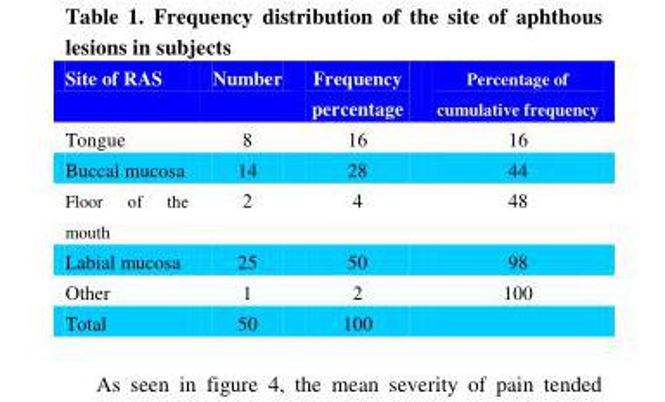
<table><thead><tr><td>Site of RAS</td><td>Number</td><td>Frequency percentage</td><td>Percentage of cumulative frequency</td></tr></thead><tbody><tr><td>Tongue</td><td>8</td><td>16</td><td>16</td></tr><tr><td>Buccal mucosa</td><td>14</td><td>28</td><td>44</td></tr><tr><td>Floor of the mouth</td><td>2</td><td>4</td><td>48</td></tr><tr><td>Labial mucosa</td><td>25</td><td>50</td><td>98</td></tr><tr><td>Other</td><td>1</td><td>2</td><td>100</td></tr><tr><td>Total</td><td>50</td><td>100</td><td></td></tr></tbody></table>